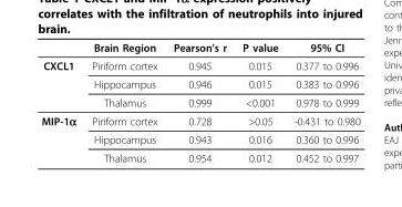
<table><thead><tr><td></td><td>Brain Region</td><td>Pearson’s r</td><td>P value</td><td>95% CI</td></tr></thead><tbody><tr><td rowspan="3">CXCL1</td><td>Piriform cortex</td><td>0.945</td><td>0.015</td><td>0.377 to 0.996</td></tr><tr><td>Hippocampus</td><td>0.946</td><td>0.015</td><td>0.383 to 0.996</td></tr><tr><td>Thalamus</td><td>0.999</td><td>&lt;0.001</td><td>0.978 to 0.999</td></tr><tr><td rowspan="3">MIP-1α</td><td>Piriform cortex</td><td>0.728</td><td>&gt;0.05</td><td>-0.431 to 0.980</td></tr><tr><td>Hippocampus</td><td>0.943</td><td>0.016</td><td>0.360 to 0.996</td></tr><tr><td>Thalamus</td><td>0.954</td><td>0.012</td><td>0.452 to 0.997</td></tr></tbody></table>